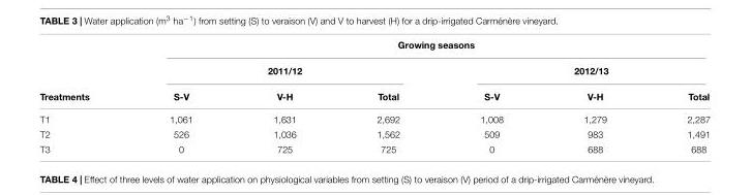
<table><thead><tr><td rowspan="3">Treatments</td><td colspan="6">Growing seasons</td></tr><tr><td colspan="3">2011/12</td><td colspan="3">2012/13</td></tr><tr><td>S-V</td><td>V-H</td><td>Total</td><td>S-V</td><td>V-H</td><td>Total</td></tr></thead><tbody><tr><td>T1</td><td>1,061</td><td>1,631</td><td>2,692</td><td>1,008</td><td>1,279</td><td>2,287</td></tr><tr><td>T2</td><td>526</td><td>1,036</td><td>1,562</td><td>509</td><td>983</td><td>1,491</td></tr><tr><td>T3</td><td>0</td><td>725</td><td>725</td><td>0</td><td>688</td><td>688</td></tr></tbody></table>